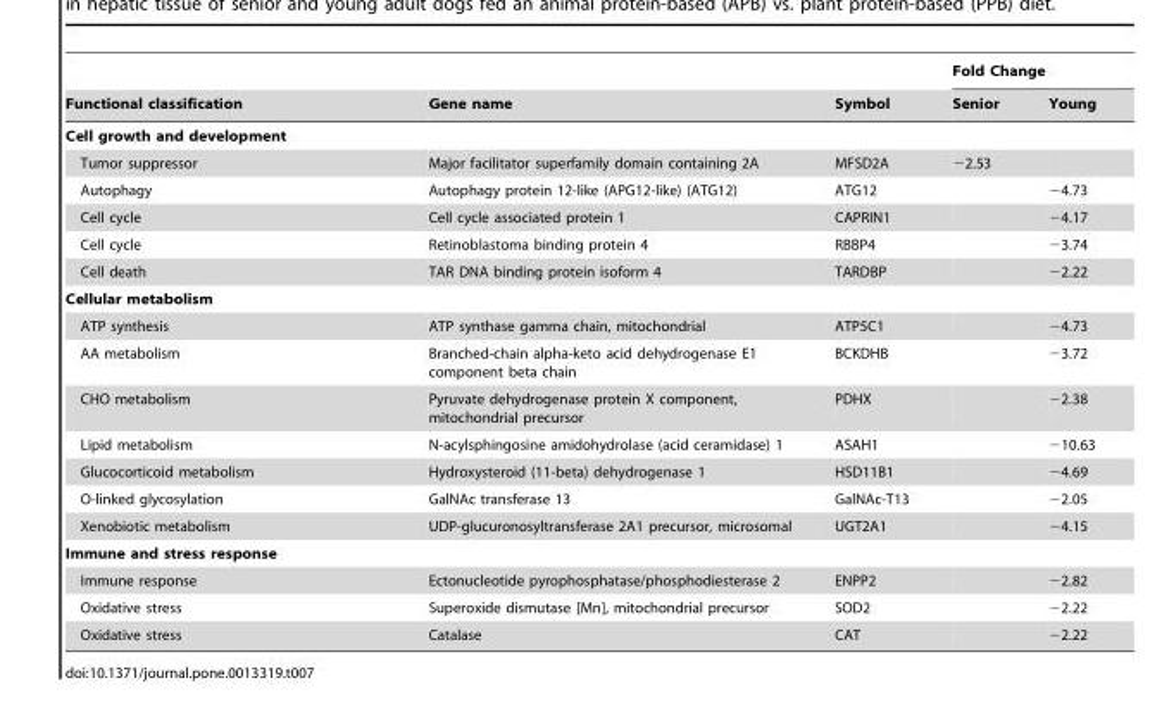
<table><thead><tr><td rowspan="2">Functional classification</td><td rowspan="2">Gene name</td><td rowspan="2">Symbol</td><td colspan="2">Fold Change</td></tr><tr><td>Senior</td><td>Young</td></tr></thead><tbody><tr><td colspan="5">Cell growth and development</td></tr><tr><td>Tumor suppressor</td><td>Major facilitator superfamily domain containing 2A</td><td>MFSD2A</td><td>−2.53</td><td></td></tr><tr><td>Autophagy</td><td>Autophagy protein 12-like (APG12-like) (ATG12)</td><td>ATG12</td><td></td><td>−4.73</td></tr><tr><td>Cell cycle</td><td>Cell cycle associated protein 1</td><td>CAPRIN1</td><td></td><td>−4.17</td></tr><tr><td>Cell cycle</td><td>Retinoblastoma binding protein 4</td><td>RBBP4</td><td></td><td>−3.74</td></tr><tr><td>Cell death</td><td>TAR DNA binding protein isoform 4</td><td>TARDBP</td><td></td><td>−2.22</td></tr><tr><td colspan="5">Cellular metabolism</td></tr><tr><td>ATP synthesis</td><td>ATP synthase gamma chain, mitochondrial</td><td>ATP5C1</td><td></td><td>−4.73</td></tr><tr><td>AA metabolism</td><td>Branched-chain alpha-keto acid dehydrogenase E1 component beta chain</td><td>BCKDHB</td><td></td><td>−3.72</td></tr><tr><td>CHO metabolism</td><td>Pyruvate dehydrogenase protein X component, mitochondrial precursor</td><td>PDHX</td><td></td><td>−2.38</td></tr><tr><td>Lipid metabolism</td><td>N-acylsphingosine amidohydrolase (acid ceramidase) 1</td><td>ASAH1</td><td></td><td>−10.63</td></tr><tr><td>Glucocorticoid metabolism</td><td>Hydroxysteroid (11-beta) dehydrogenase 1</td><td>HSD11B1</td><td></td><td>−4.69</td></tr><tr><td>O-linked glycosylation</td><td>GalNAc transferase 13</td><td>GalNAc-T13</td><td></td><td>−2.05</td></tr><tr><td>Xenobiotic metabolism</td><td>UDP-glucuronosyltransferase 2A1 precursor, microsomal</td><td>UGT2A1</td><td></td><td>−4.15</td></tr><tr><td colspan="5">Immune and stress response</td></tr><tr><td>Immune response</td><td>Ectonucleotide pyrophosphatase/phosphodiesterase 2</td><td>ENPP2</td><td></td><td>−2.82</td></tr><tr><td>Oxidative stress</td><td>Superoxide dismutase [Mn], mitochondrial precursor</td><td>SOD2</td><td></td><td>−2.22</td></tr><tr><td>Oxidative stress</td><td>Catalase</td><td>CAT</td><td></td><td>−2.22</td></tr></tbody></table>